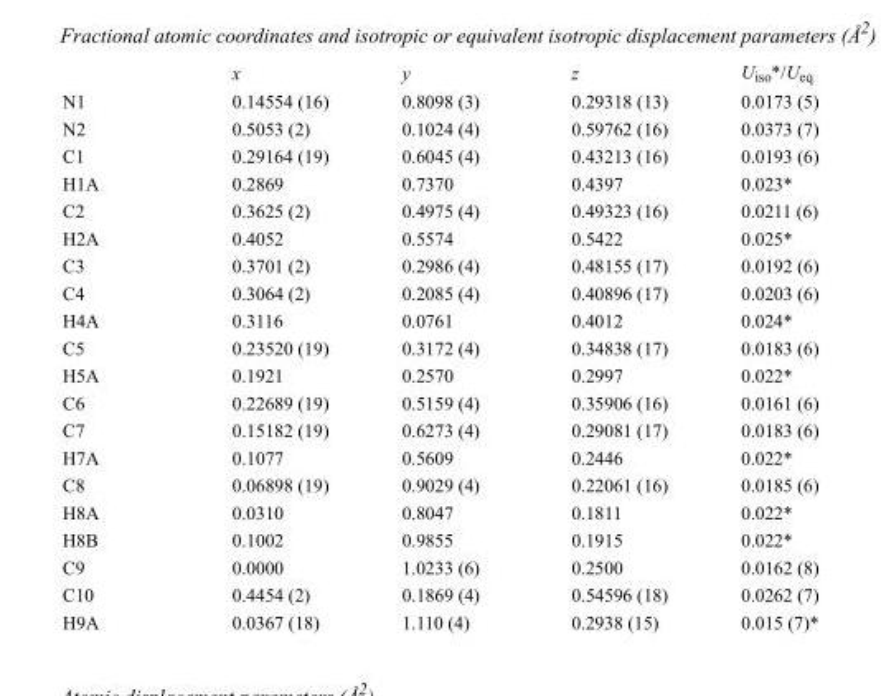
<table><thead><tr><td></td><td>x</td><td>y</td><td>z</td><td>U<sub>iso</sub>*/U<sub>eq</sub></td></tr></thead><tbody><tr><td>N1</td><td>0.14554 (16)</td><td>0.8098 (3)</td><td>0.29318 (13)</td><td>0.0173 (5)</td></tr><tr><td>N2</td><td>0.5053 (2)</td><td>0.1024 (4)</td><td>0.59762 (16)</td><td>0.0373 (7)</td></tr><tr><td>C1</td><td>0.29164 (19)</td><td>0.6045 (4)</td><td>0.43213 (16)</td><td>0.0193 (6)</td></tr><tr><td>H1A</td><td>0.2869</td><td>0.7370</td><td>0.4397</td><td>0.023*</td></tr><tr><td>C2</td><td>0.3625 (2)</td><td>0.4975 (4)</td><td>0.49323 (16)</td><td>0.0211 (6)</td></tr><tr><td>H2A</td><td>0.4052</td><td>0.5574</td><td>0.5422</td><td>0.025*</td></tr><tr><td>C3</td><td>0.3701 (2)</td><td>0.2986 (4)</td><td>0.48155 (17)</td><td>0.0192 (6)</td></tr><tr><td>C4</td><td>0.3064 (2)</td><td>0.2085 (4)</td><td>0.40896 (17)</td><td>0.0203 (6)</td></tr><tr><td>H4A</td><td>0.3116</td><td>0.0761</td><td>0.4012</td><td>0.024*</td></tr><tr><td>C5</td><td>0.23520 (19)</td><td>0.3172 (4)</td><td>0.34838 (17)</td><td>0.0183 (6)</td></tr><tr><td>H5A</td><td>0.1921</td><td>0.2570</td><td>0.2997</td><td>0.022*</td></tr><tr><td>C6</td><td>0.22689 (19)</td><td>0.5159 (4)</td><td>0.35906 (16)</td><td>0.0161 (6)</td></tr><tr><td>C7</td><td>0.15182 (19)</td><td>0.6273 (4)</td><td>0.29081 (17)</td><td>0.0183 (6)</td></tr><tr><td>H7A</td><td>0.1077</td><td>0.5609</td><td>0.2446</td><td>0.022*</td></tr><tr><td>C8</td><td>0.06898 (19)</td><td>0.9029 (4)</td><td>0.22061 (16)</td><td>0.0185 (6)</td></tr><tr><td>H8A</td><td>0.0310</td><td>0.8047</td><td>0.1811</td><td>0.022*</td></tr><tr><td>H8B</td><td>0.1002</td><td>0.9855</td><td>0.1915</td><td>0.022*</td></tr><tr><td>C9</td><td>0.0000</td><td>1.0233 (6)</td><td>0.2500</td><td>0.0162 (8)</td></tr><tr><td>C10</td><td>0.4454 (2)</td><td>0.1869 (4)</td><td>0.54596 (18)</td><td>0.0262 (7)</td></tr><tr><td>H9A</td><td>0.0367 (18)</td><td>1.110 (4)</td><td>0.2938 (15)</td><td>0.015 (7)*</td></tr></tbody></table>